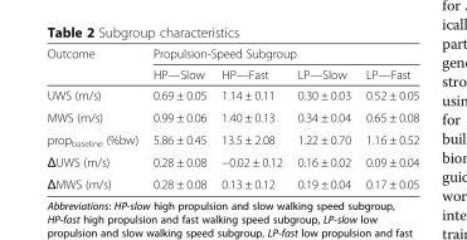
<table><thead><tr><td rowspan="2">Outcome</td><td colspan="4">Propulsion-Speed Subgroup</td></tr><tr><td>HP—Slow</td><td>HP—Fast</td><td>LP—Slow</td><td>LP—Fast</td></tr></thead><tbody><tr><td>UWS (m/s)</td><td>0.69 ± 0.05</td><td>1.14 ± 0.11</td><td>0.30 ± 0.03</td><td>0.52 ± 0.05</td></tr><tr><td>MWS (m/s)</td><td>0.99 ± 0.06</td><td>1.40 ± 0.13</td><td>0.34 ± 0.04</td><td>0.65 ± 0.08</td></tr><tr><td>prop<sub>baseline</sub> (%bw)</td><td>5.86 ± 0.45</td><td>13.5 ± 2.08</td><td>1.22 ± 0.70</td><td>1.16 ± 0.52</td></tr><tr><td>ΔUWS (m/s)</td><td>0.28 ± 0.08</td><td>−0.02 ± 0.12</td><td>0.16 ± 0.02</td><td>0.09 ± 0.04</td></tr><tr><td>ΔMWS (m/s)</td><td>0.28 ± 0.08</td><td>0.13 ± 0.12</td><td>0.19 ± 0.04</td><td>0.17 ± 0.05</td></tr></tbody></table>